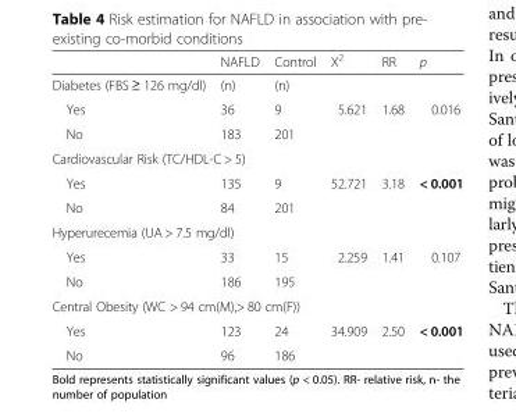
<table><thead><tr><td></td><td>NAFLD</td><td>Control</td><td>X<sup>2</sup></td><td>RR</td><td>p</td></tr></thead><tbody><tr><td>Diabetes (FBS ≥ 126 mg/dl)</td><td>(n)</td><td>(n)</td><td></td><td></td><td></td></tr><tr><td>Yes</td><td>36</td><td>9</td><td>5.621</td><td>1.68</td><td>0.016</td></tr><tr><td>No</td><td>183</td><td>201</td><td></td><td></td><td></td></tr><tr><td colspan="6">Cardiovascular Risk (TC/HDL-C &gt; 5)</td></tr><tr><td>Yes</td><td>135</td><td>9</td><td>52.721</td><td>3.18</td><td>&lt; 0.001</td></tr><tr><td>No</td><td>84</td><td>201</td><td></td><td></td><td></td></tr><tr><td colspan="6">Hyperurecemia (UA &gt; 7.5 mg/dl)</td></tr><tr><td>Yes</td><td>33</td><td>15</td><td>2.259</td><td>1.41</td><td>0.107</td></tr><tr><td>No</td><td>186</td><td>195</td><td></td><td></td><td></td></tr><tr><td colspan="6">Central Obesity (WC &gt; 94 cm(M),&gt; 80 cm(F))</td></tr><tr><td>Yes</td><td>123</td><td>24</td><td>34.909</td><td>2.50</td><td>&lt; 0.001</td></tr><tr><td>No</td><td>96</td><td>186</td><td></td><td></td><td></td></tr></tbody></table>